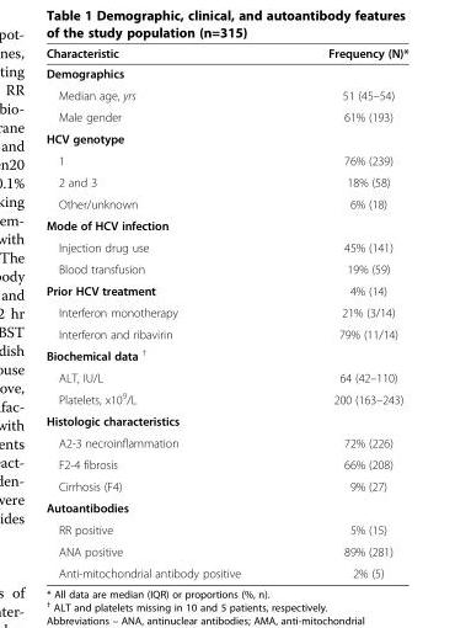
<table><thead><tr><td>Characteristic</td><td>Frequency (N)*</td></tr></thead><tbody><tr><td colspan="2">Demographics</td></tr><tr><td>Median age, yrs</td><td>51 (45–54)</td></tr><tr><td>Male gender</td><td>61% (193)</td></tr><tr><td colspan="2">HCV genotype</td></tr><tr><td>1</td><td>76% (239)</td></tr><tr><td>2 and 3</td><td>18% (58)</td></tr><tr><td>Other/unknown</td><td>6% (18)</td></tr><tr><td colspan="2">Mode of HCV infection</td></tr><tr><td>Injection drug use</td><td>45% (141)</td></tr><tr><td>Blood transfusion</td><td>19% (59)</td></tr><tr><td>Prior HCV treatment</td><td>4% (14)</td></tr><tr><td>Interferon monotherapy</td><td>21% (3/14)</td></tr><tr><td>Interferon and ribavirin</td><td>79% (11/14)</td></tr><tr><td colspan="2">Biochemical data <sup>†</sup></td></tr><tr><td>ALT, IU/L</td><td>64 (42–110)</td></tr><tr><td>Platelets, x10<sup>9</sup>/L</td><td>200 (163–243)</td></tr><tr><td colspan="2">Histologic characteristics</td></tr><tr><td>A2-3 necroinflammation</td><td>72% (226)</td></tr><tr><td>F2-4 fibrosis</td><td>66% (208)</td></tr><tr><td>Cirrhosis (F4)</td><td>9% (27)</td></tr><tr><td colspan="2">Autoantibodies</td></tr><tr><td>RR positive</td><td>5% (15)</td></tr><tr><td>ANA positive</td><td>89% (281)</td></tr><tr><td>Anti-mitochondrial antibody positive</td><td>2% (5)</td></tr></tbody></table>